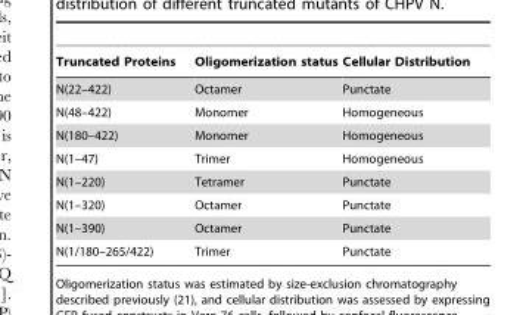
<table><thead><tr><td>Truncated Proteins</td><td>Oligomerization status</td><td>Cellular Distribution</td></tr></thead><tbody><tr><td>N(22–422)</td><td>Octamer</td><td>Punctate</td></tr><tr><td>N(48–422)</td><td>Monomer</td><td>Homogeneous</td></tr><tr><td>N(180–422)</td><td>Monomer</td><td>Homogeneous</td></tr><tr><td>N(1–47)</td><td>Trimer</td><td>Homogeneous</td></tr><tr><td>N(1–220)</td><td>Tetramer</td><td>Punctate</td></tr><tr><td>N(1–320)</td><td>Octamer</td><td>Punctate</td></tr><tr><td>N(1–390)</td><td>Octamer</td><td>Punctate</td></tr><tr><td>N(1/180–265/422)</td><td>Trimer</td><td>Punctate</td></tr></tbody></table>